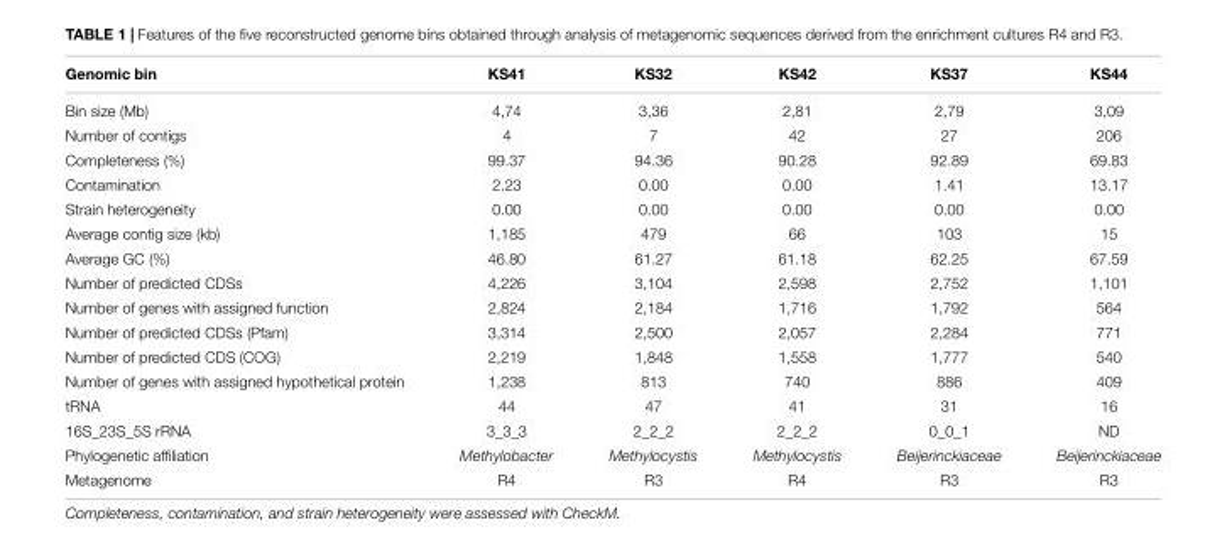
<table><thead><tr><td>Genomic bin</td><td>KS41</td><td>KS32</td><td>KS42</td><td>KS37</td><td>KS44</td></tr></thead><tbody><tr><td>Bin size (Mb)</td><td>4,74</td><td>3,36</td><td>2,81</td><td>2,79</td><td>3,09</td></tr><tr><td>Number of contigs</td><td>4</td><td>7</td><td>42</td><td>27</td><td>206</td></tr><tr><td>Completeness (%)</td><td>99.37</td><td>94.36</td><td>90.28</td><td>92.89</td><td>69.83</td></tr><tr><td>Contamination</td><td>2.23</td><td>0.00</td><td>0.00</td><td>1.41</td><td>13.17</td></tr><tr><td>Strain heterogeneity</td><td>0.00</td><td>0.00</td><td>0.00</td><td>0.00</td><td>0.00</td></tr><tr><td>Average contig size (kb)</td><td>1,185</td><td>479</td><td>66</td><td>103</td><td>15</td></tr><tr><td>Average GC (%)</td><td>46.80</td><td>61.27</td><td>61.18</td><td>62.25</td><td>67.59</td></tr><tr><td>Number of predicted CDSs</td><td>4,226</td><td>3,104</td><td>2,598</td><td>2,752</td><td>1,101</td></tr><tr><td>Number of genes with assigned function</td><td>2,824</td><td>2,184</td><td>1,716</td><td>1,792</td><td>564</td></tr><tr><td>Number of predicted CDSs (Pfam)</td><td>3,314</td><td>2,500</td><td>2,057</td><td>2,284</td><td>771</td></tr><tr><td>Number of predicted CDS (COG)</td><td>2,219</td><td>1,848</td><td>1,558</td><td>1,777</td><td>540</td></tr><tr><td>Number of genes with assigned hypothetical protein</td><td>1,238</td><td>813</td><td>740</td><td>886</td><td>409</td></tr><tr><td>tRNA</td><td>44</td><td>47</td><td>41</td><td>31</td><td>16</td></tr><tr><td>16S_23S_5S rRNA</td><td>3_3_3</td><td>2_2_2</td><td>2_2_2</td><td>0_0_1</td><td>ND</td></tr><tr><td>Phylogenetic affiliation</td><td>Methylobacter</td><td>Methylocystis</td><td>Methylocystis</td><td>Beijerinckiaceae</td><td>Beijerinckiaceae</td></tr><tr><td>Metagenome</td><td>R4</td><td>R3</td><td>R4</td><td>R3</td><td>R3</td></tr></tbody></table>